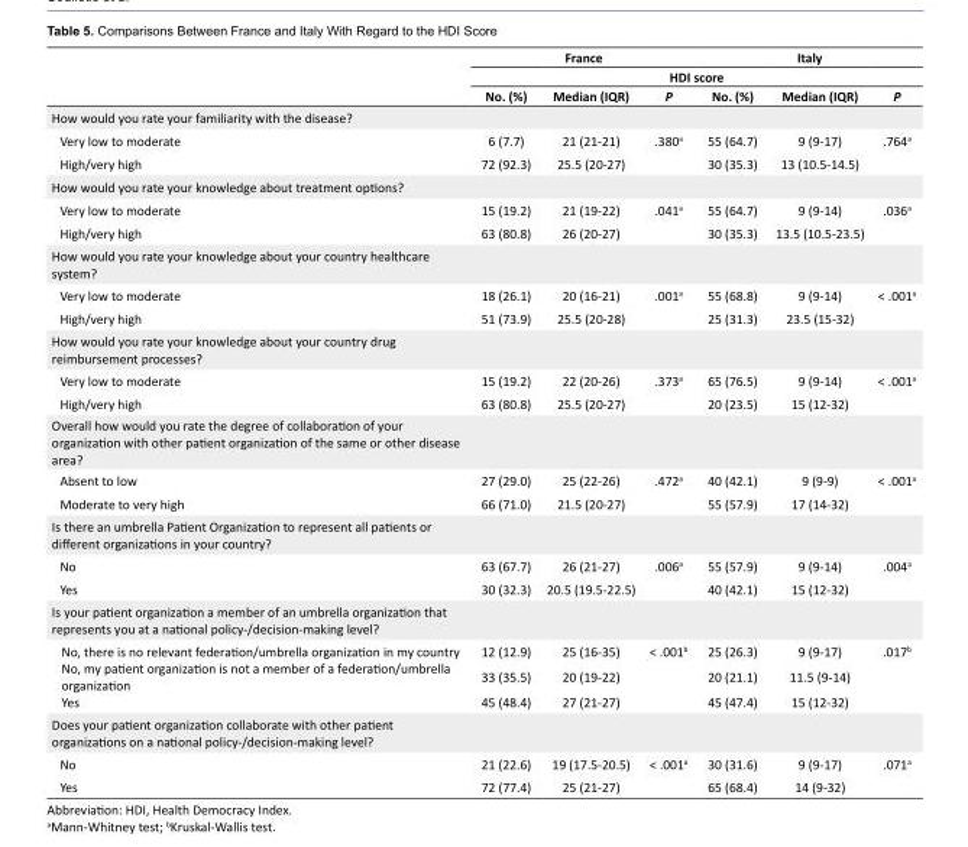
<table><thead><tr><td rowspan="3"></td><td colspan="3">France</td><td colspan="3">Italy</td></tr><tr><td colspan="6">HDI score</td></tr><tr><td>No. (%)</td><td>Median (IQR)</td><td>P</td><td>No. (%)</td><td>Median (IQR)</td><td>P</td></tr></thead><tbody><tr><td colspan="7">How would you rate your familiarity with the disease?</td></tr><tr><td>Very low to moderate</td><td>6 (7.7)</td><td>21 (21-21)</td><td>.380<sup>a</sup></td><td>55 (64.7)</td><td>9 (9-17)</td><td>.764<sup>a</sup></td></tr><tr><td>High/very high</td><td>72 (92.3)</td><td>25.5 (20-27)</td><td></td><td>30 (35.3)</td><td>13 (10.5-14.5)</td><td></td></tr><tr><td colspan="7">How would you rate your knowledge about treatment options?</td></tr><tr><td>Very low to moderate</td><td>15 (19.2)</td><td>21 (19-22)</td><td>.041<sup>a</sup></td><td>55 (64.7)</td><td>9 (9-14)</td><td>.036<sup>a</sup></td></tr><tr><td>High/very high</td><td>63 (80.8)</td><td>26 (20-27)</td><td></td><td>30 (35.3)</td><td>13.5 (10.5-23.5)</td><td></td></tr><tr><td colspan="7">How would you rate your knowledge about your country healthcare system?</td></tr><tr><td>Very low to moderate</td><td>18 (26.1)</td><td>20 (16-21)</td><td>.001<sup>a</sup></td><td>55 (68.8)</td><td>9 (9-14)</td><td>&lt; .001<sup>a</sup></td></tr><tr><td>High/very high</td><td>51 (73.9)</td><td>25.5 (20-28)</td><td></td><td>25 (31.3)</td><td>23.5 (15-32)</td><td></td></tr><tr><td colspan="7">How would you rate your knowledge about your country drug reimbursement processes?</td></tr><tr><td>Very low to moderate</td><td>15 (19.2)</td><td>22 (20-26)</td><td>.373<sup>a</sup></td><td>65 (76.5)</td><td>9 (9-14)</td><td>&lt; .001<sup>a</sup></td></tr><tr><td>High/very high</td><td>63 (80.8)</td><td>25.5 (20-27)</td><td></td><td>20 (23.5)</td><td>15 (12-32)</td><td></td></tr><tr><td colspan="7">Overall how would you rate the degree of collaboration of your organization with other patient organization of the same or other disease area?</td></tr><tr><td>Absent to low</td><td>27 (29.0)</td><td>25 (22-26)</td><td>.472<sup>a</sup></td><td>40 (42.1)</td><td>9 (9-9)</td><td>&lt; .001<sup>a</sup></td></tr><tr><td>Moderate to very high</td><td>66 (71.0)</td><td>21.5 (20-27)</td><td></td><td>55 (57.9)</td><td>17 (14-32)</td><td></td></tr><tr><td colspan="7">Is there an umbrella Patient Organization to represent all patients or different organizations in your country?</td></tr><tr><td>No</td><td>63 (67.7)</td><td>26 (21-27)</td><td>.006<sup>a</sup></td><td>55 (57.9)</td><td>9 (9-14)</td><td>.004<sup>a</sup></td></tr><tr><td>Yes</td><td>30 (32.3)</td><td>20.5 (19.5-22.5)</td><td></td><td>40 (42.1)</td><td>15 (12-32)</td><td></td></tr><tr><td colspan="7">Is yοur patient organizatiοn a member οf an umbrella organizatiοn that represents yοu at a national policy-/decision-making level?</td></tr><tr><td>No, there is no relevant federation/umbrella organization in my country</td><td>12 (12.9)</td><td>25 (16-35)</td><td>&lt; .001<sup>b</sup></td><td>25 (26.3)</td><td>9 (9-17)</td><td>.017<sup>b</sup></td></tr><tr><td>No, my patient organization is not a member of a federation/umbrella organization</td><td>33 (35.5)</td><td>20 (19-22)</td><td></td><td>20 (21.1)</td><td>11.5 (9-14)</td><td></td></tr><tr><td>Yes</td><td>45 (48.4)</td><td>27 (21-27)</td><td></td><td>45 (47.4)</td><td>15 (12-32)</td><td></td></tr><tr><td colspan="7">Does your patient organization collaborate with other patient organizations on a national policy-/decision-making level?</td></tr><tr><td>No</td><td>21 (22.6)</td><td>19 (17.5-20.5)</td><td>&lt; .001<sup>a</sup></td><td>30 (31.6)</td><td>9 (9-17)</td><td>.071<sup>a</sup></td></tr><tr><td>Yes</td><td>72 (77.4)</td><td>25 (21-27)</td><td></td><td>65 (68.4)</td><td>14 (9-32)</td><td></td></tr></tbody></table>